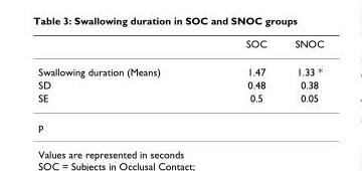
<table><thead><tr><td></td><td>SOC</td><td>SNOC</td></tr></thead><tbody><tr><td>Swallowing duration (Means)</td><td>1.47</td><td>1.33 *</td></tr><tr><td>SD</td><td>0.48</td><td>0.38</td></tr><tr><td>SE</td><td>0.5</td><td>0.05</td></tr><tr><td>p</td><td></td><td></td></tr></tbody></table>